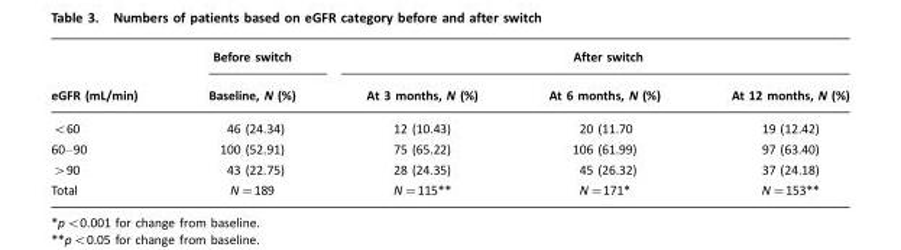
<table><thead><tr><td rowspan="2">eGFR (mL/min)</td><td rowspan="2">Before switch Baseline, N (%)</td><td colspan="3">After switch</td></tr><tr><td>At 3 months, N (%)</td><td>At 6 months, N (%)</td><td>At 12 months, N (%)</td></tr></thead><tbody><tr><td>&lt;60</td><td>46 (24.34)</td><td>12 (10.43)</td><td>20 (11.70</td><td>19 (12.42)</td></tr><tr><td>60–90</td><td>100 (52.91)</td><td>75 (65.22)</td><td>106 (61.99)</td><td>97 (63.40)</td></tr><tr><td>&gt;90</td><td>43 (22.75)</td><td>28 (24.35)</td><td>45 (26.32)</td><td>37 (24.18)</td></tr><tr><td>Total</td><td>N=189</td><td>N=115**</td><td>N=171*</td><td>N=153**</td></tr></tbody></table>